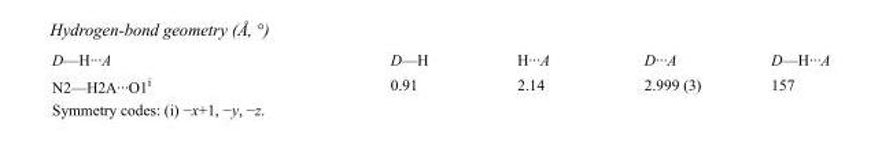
<table><tbody><tr><td>D—H···A</td><td>D—H</td><td>H···A</td><td>D···A</td><td>D—H···A</td></tr><tr><td>N2—H2A···O1<sup>i</sup></td><td>0.91</td><td>2.14</td><td>2.999 (3)</td><td>157</td></tr></tbody></table>